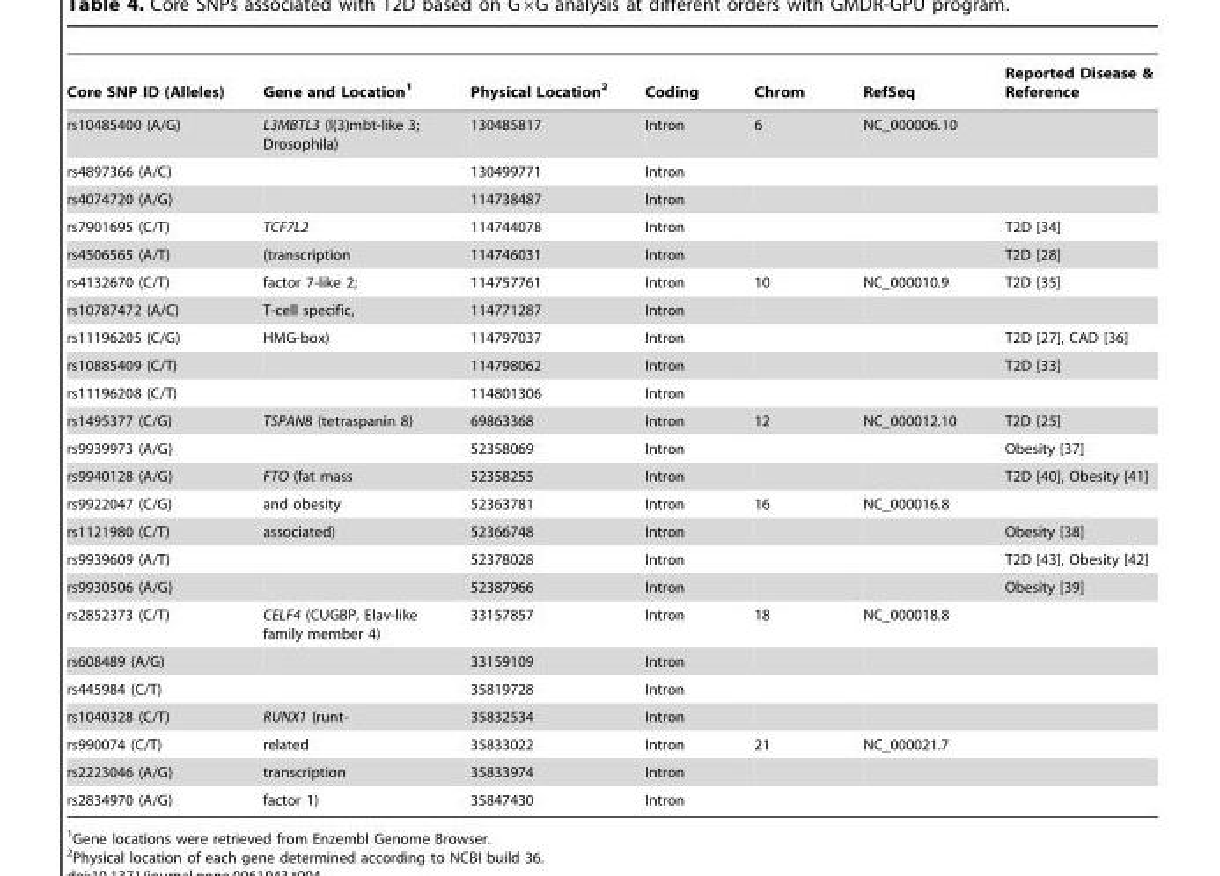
<table><thead><tr><td>Core SNP ID (Alleles)</td><td>Gene and Location<sup>1</sup></td><td>Physical Location<sup>2</sup></td><td>Coding</td><td>Chrom</td><td>RefSeq</td><td>Reported Disease &amp; Reference</td></tr></thead><tbody><tr><td>rs10485400 (A/G)</td><td>L3MBTL3 (l(3)mbt-like 3; Drosophila)</td><td>130485817</td><td>Intron</td><td>6</td><td>NC_000006.10</td><td></td></tr><tr><td>rs4897366 (A/C)</td><td></td><td>130499771</td><td>Intron</td><td></td><td></td><td></td></tr><tr><td>rs4074720 (A/G)</td><td></td><td>114738487</td><td>Intron</td><td></td><td></td><td></td></tr><tr><td>rs7901695 (C/T)</td><td>TCF7L2</td><td>114744078</td><td>Intron</td><td></td><td></td><td>T2D [34]</td></tr><tr><td>rs4506565 (A/T)</td><td>(transcription</td><td>114746031</td><td>Intron</td><td></td><td></td><td>T2D [28]</td></tr><tr><td>rs4132670 (C/T)</td><td>factor 7-like 2;</td><td>114757761</td><td>Intron</td><td>10</td><td>NC_000010.9</td><td>T2D [35]</td></tr><tr><td>rs10787472 (A/C)</td><td>T-cell specific,</td><td>114771287</td><td>Intron</td><td></td><td></td><td></td></tr><tr><td>rs11196205 (C/G)</td><td>HMG-box)</td><td>114797037</td><td>Intron</td><td></td><td></td><td>T2D [27], CAD [36]</td></tr><tr><td>rs10885409 (C/T)</td><td></td><td>114798062</td><td>Intron</td><td></td><td></td><td>T2D [33]</td></tr><tr><td>rs11196208 (C/T)</td><td></td><td>114801306</td><td>Intron</td><td></td><td></td><td></td></tr><tr><td>rs1495377 (C/G)</td><td>TSPAN8 (tetraspanin 8)</td><td>69863368</td><td>Intron</td><td>12</td><td>NC_000012.10</td><td>T2D [25]</td></tr><tr><td>rs9939973 (A/G)</td><td></td><td>52358069</td><td>Intron</td><td></td><td></td><td>Obesity [37]</td></tr><tr><td>rs9940128 (A/G)</td><td>FTO (fat mass</td><td>52358255</td><td>Intron</td><td></td><td></td><td>T2D [40], Obesity [41]</td></tr><tr><td>rs9922047 (C/G)</td><td>and obesity</td><td>52363781</td><td>Intron</td><td>16</td><td>NC_000016.8</td><td></td></tr><tr><td>rs1121980 (C/T)</td><td>associated)</td><td>52366748</td><td>Intron</td><td></td><td></td><td>Obesity [38]</td></tr><tr><td>rs9939609 (A/T)</td><td></td><td>52378028</td><td>Intron</td><td></td><td></td><td>T2D [43], Obesity [42]</td></tr><tr><td>rs9930506 (A/G)</td><td></td><td>52387966</td><td>Intron</td><td></td><td></td><td>Obesity [39]</td></tr><tr><td>rs2852373 (C/T)</td><td>CELF4 (CUGBP, Elav-like family member 4)</td><td>33157857</td><td>Intron</td><td>18</td><td>NC_000018.8</td><td></td></tr><tr><td>rs608489 (A/G)</td><td></td><td>33159109</td><td>Intron</td><td></td><td></td><td></td></tr><tr><td>rs445984 (C/T)</td><td></td><td>35819728</td><td>Intron</td><td></td><td></td><td></td></tr><tr><td>rs1040328 (C/T)</td><td>RUNX1 (runt-</td><td>35832534</td><td>Intron</td><td></td><td></td><td></td></tr><tr><td>rs990074 (C/T)</td><td>related</td><td>35833022</td><td>Intron</td><td>21</td><td>NC_000021.7</td><td></td></tr><tr><td>rs2223046 (A/G)</td><td>transcription</td><td>35833974</td><td>Intron</td><td></td><td></td><td></td></tr><tr><td>rs2834970 (A/G)</td><td>factor 1)</td><td>35847430</td><td>Intron</td><td></td><td></td><td></td></tr></tbody></table>